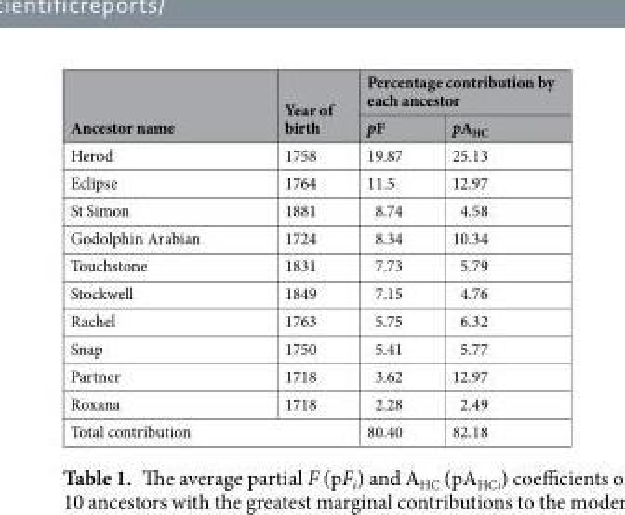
<table><thead><tr><td rowspan="2">Ancestor name</td><td rowspan="2">Year of birth</td><td colspan="2">Percentage contribution by each ancestor</td></tr><tr><td>pF</td><td>pA<sub>HC</sub></td></tr></thead><tbody><tr><td>Herod</td><td>1758</td><td>19.87</td><td>25.13</td></tr><tr><td>Eclipse</td><td>1764</td><td>11.5</td><td>12.97</td></tr><tr><td>St Simon</td><td>1881</td><td>8.74</td><td>4.58</td></tr><tr><td>Godolphin Arabian</td><td>1724</td><td>8.34</td><td>10.34</td></tr><tr><td>Touchstone</td><td>1831</td><td>7.73</td><td>5.79</td></tr><tr><td>Stockwell</td><td>1849</td><td>7.15</td><td>4.76</td></tr><tr><td>Rachel</td><td>1763</td><td>5.75</td><td>6.32</td></tr><tr><td>Snap</td><td>1750</td><td>5.41</td><td>5.77</td></tr><tr><td>Partner</td><td>1718</td><td>3.62</td><td>12.97</td></tr><tr><td>Roxana</td><td>1718</td><td>2.28</td><td>2.49</td></tr><tr><td colspan="2">Total contribution</td><td>80.40</td><td>82.18</td></tr></tbody></table>